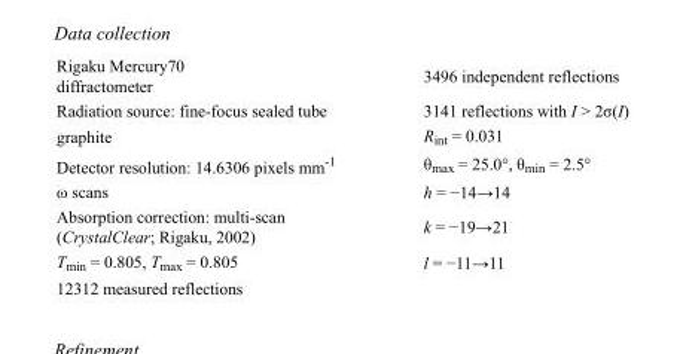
<table><tbody><tr><td>Rigaku Mercury70 diffractometer</td><td>3496 independent reflections</td></tr><tr><td>Radiation source: fine-focus sealed tube</td><td>3141 reflections with I &gt; 2σ(I)</td></tr><tr><td>graphite</td><td>R<sub>int</sub> = 0.031</td></tr><tr><td>Detector resolution: 14.6306 pixels mm<sup>-1</sup></td><td>θ<sub>max</sub> = 25.0°, θ<sub>min</sub> = 2.5°</td></tr><tr><td>ω scans</td><td>h = −14→14</td></tr><tr><td>Absorption correction: multi-scan (CrystalClear; Rigaku, 2002)</td><td>k = −19→21</td></tr><tr><td>T<sub>min</sub> = 0.805, T<sub>max</sub> = 0.805</td><td>l = −11→11</td></tr><tr><td>12312 measured reflections</td><td></td></tr></tbody></table>